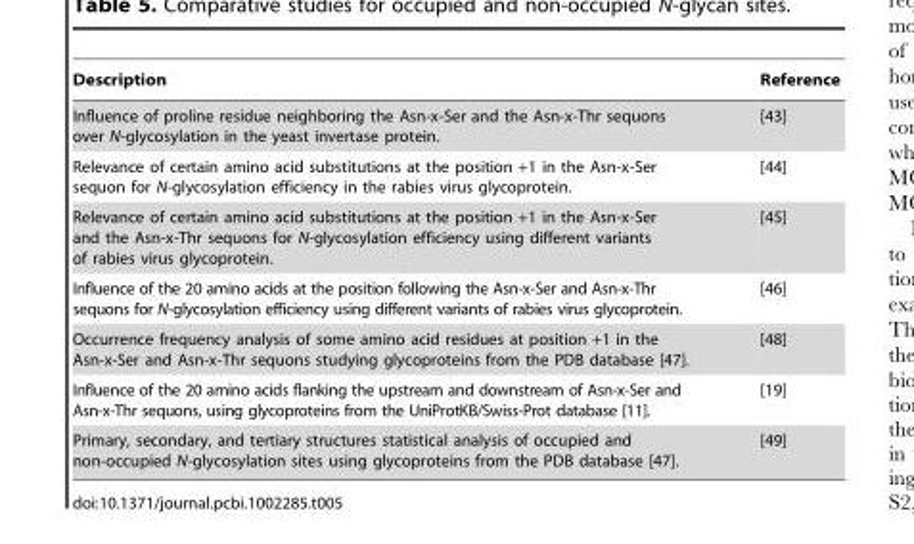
<table><thead><tr><td>Description</td><td>Reference</td></tr></thead><tbody><tr><td>Influence of proline residue neighboring the Asn-x-Ser and the Asn-x-Thr sequons over N-glycosylation in the yeast invertase protein.</td><td>[43]</td></tr><tr><td>Relevance of certain amino acid substitutions at the position +1 in the Asn-x-Ser sequon for N-glycosylation efficiency in the rabies virus glycoprotein.</td><td>[44]</td></tr><tr><td>Relevance of certain amino acid substitutions at the position +1 in the Asn-x-Ser and the Asn-x-Thr sequons for N-glycosylation efficiency using different variants of rabies virus glycoprotein.</td><td>[45]</td></tr><tr><td>Influence of the 20 amino acids at the position following the Asn-x-Ser and Asn-x-Thr sequons for N-glycosylation efficiency using different variants of rabies virus glycoprotein.</td><td>[46]</td></tr><tr><td>Occurrence frequency analysis of some amino acid residues at position +1 in the Asn-x-Ser and Asn-x-Thr sequons studying glycoproteins from the PDB database [47].</td><td>[48]</td></tr><tr><td>Influence of the 20 amino acids flanking the upstream and downstream of Asn-x-Ser and Asn-x-Thr sequons, using glycoproteins from the UniProtKB/Swiss-Prot database [11].</td><td>[19]</td></tr><tr><td>Primary, secondary, and tertiary structures statistical analysis of occupied and non-occupied N-glycosylation sites using glycoproteins from the PDB database [47].</td><td>[49]</td></tr></tbody></table>